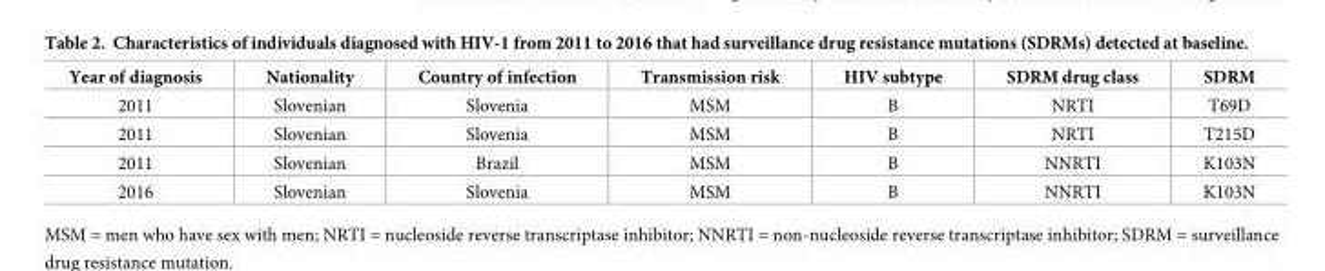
<table><thead><tr><td>Year of diagnosis</td><td>Nationality</td><td>Country of infection</td><td>Transmission risk</td><td>HIV subtype</td><td>SDRM drug class</td><td>SDRM</td></tr></thead><tbody><tr><td>2011</td><td>Slovenian</td><td>Slovenia</td><td>MSM</td><td>B</td><td>NRTI</td><td>T69D</td></tr><tr><td>2011</td><td>Slovenian</td><td>Slovenia</td><td>MSM</td><td>B</td><td>NRTI</td><td>T215D</td></tr><tr><td>2011</td><td>Slovenian</td><td>Brazil</td><td>MSM</td><td>B</td><td>NNRTI</td><td>K103N</td></tr><tr><td>2016</td><td>Slovenian</td><td>Slovenia</td><td>MSM</td><td>B</td><td>NNRTI</td><td>K103N</td></tr></tbody></table>